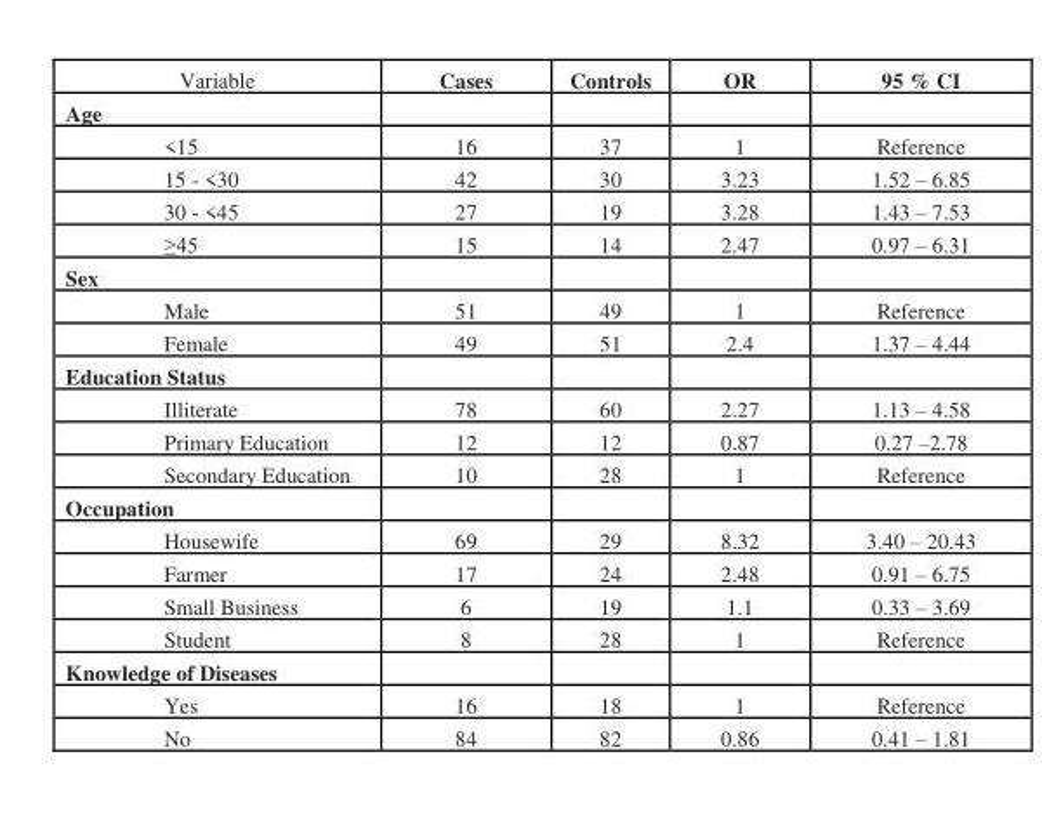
<table><thead><tr><td>Variable</td><td>Cases</td><td>Controls</td><td>OR</td><td>95 % CI</td></tr></thead><tbody><tr><td colspan="5">Age</td></tr><tr><td>&lt;15</td><td>16</td><td>37</td><td>1</td><td>Reference</td></tr><tr><td>15 - &lt;30</td><td>42</td><td>30</td><td>3.23</td><td>1.52 – 6.85</td></tr><tr><td>30 - &lt;45</td><td>27</td><td>19</td><td>3.28</td><td>1.43 – 7.53</td></tr><tr><td>≥45</td><td>15</td><td>14</td><td>2.47</td><td>0.97 – 6.31</td></tr><tr><td colspan="5">Sex</td></tr><tr><td>Male</td><td>51</td><td>49</td><td>1</td><td>Reference</td></tr><tr><td>Female</td><td>49</td><td>51</td><td>2.4</td><td>1.37 – 4.44</td></tr><tr><td colspan="5">Education Status</td></tr><tr><td>Illiterate</td><td>78</td><td>60</td><td>2.27</td><td>1.13 – 4.58</td></tr><tr><td>Primary Education</td><td>12</td><td>12</td><td>0.87</td><td>0.27 –2.78</td></tr><tr><td>Secondary Education</td><td>10</td><td>28</td><td>1</td><td>Reference</td></tr><tr><td colspan="5">Occupation</td></tr><tr><td>Housewife</td><td>69</td><td>29</td><td>8.32</td><td>3.40 – 20.43</td></tr><tr><td>Farmer</td><td>17</td><td>24</td><td>2.48</td><td>0.91 – 6.75</td></tr><tr><td>Small Business</td><td>6</td><td>19</td><td>1.1</td><td>0.33 – 3.69</td></tr><tr><td>Student</td><td>8</td><td>28</td><td>1</td><td>Reference</td></tr><tr><td colspan="5">Knowledge of Diseases</td></tr><tr><td>Yes</td><td>16</td><td>18</td><td>1</td><td>Reference</td></tr><tr><td>No</td><td>84</td><td>82</td><td>0.86</td><td>0.41 – 1.81</td></tr></tbody></table>